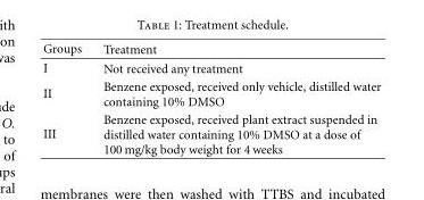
<table><thead><tr><td>Groups</td><td>Treatment</td></tr></thead><tbody><tr><td>I</td><td>Not received any treatment</td></tr><tr><td>II</td><td>Benzene exposed, received only vehicle, distilled water containing 10% DMSO</td></tr><tr><td>III</td><td>Benzene exposed, received plant extract suspended in distilled water containing 10% DMSO at a dose of 100 mg/kg body weight for 4 weeks</td></tr></tbody></table>